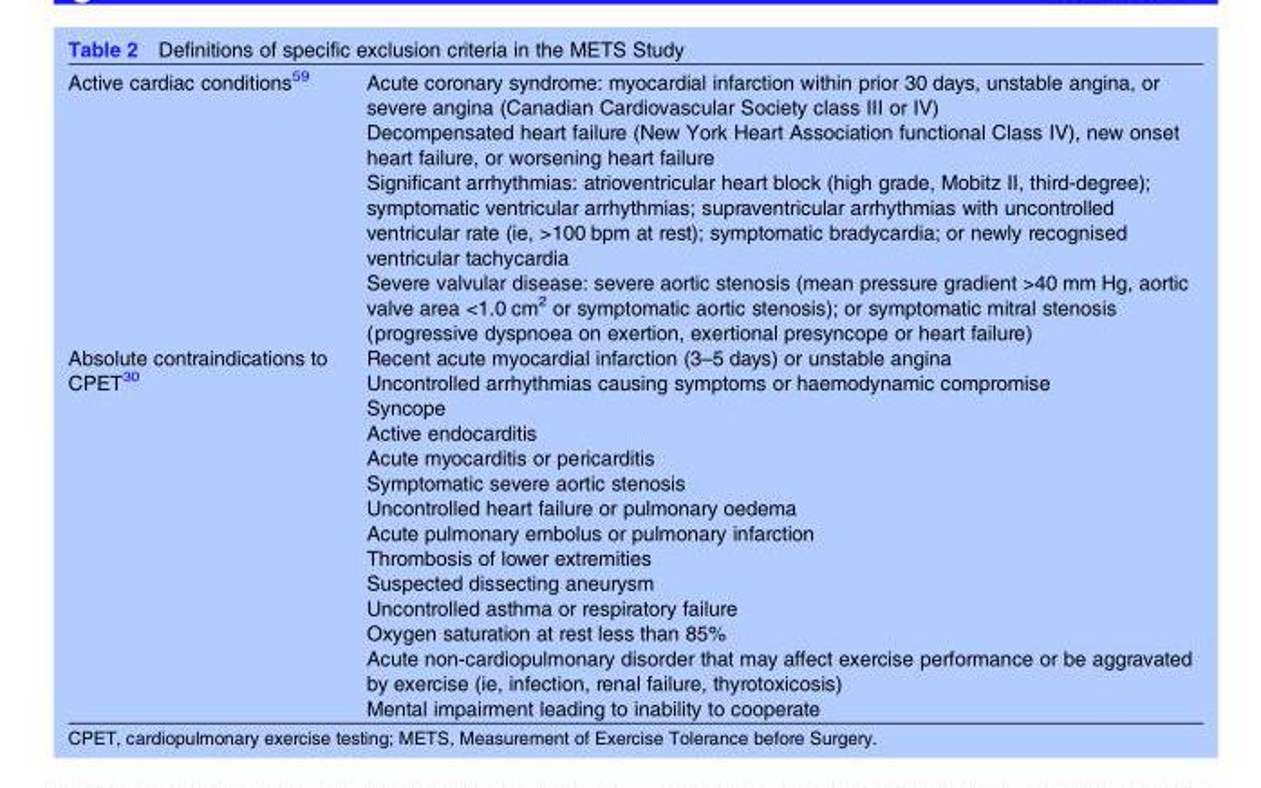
<table><tbody><tr><td rowspan="4">Active cardiac conditions<sup>59</sup></td><td>Acute coronary syndrome: myocardial infarction within prior 30 days, unstable angina, or severe angina (Canadian Cardiovascular Society class III or IV)</td></tr><tr><td>Decompensated heart failure (New York Heart Association functional Class IV), new onset heart failure, or worsening heart failure</td></tr><tr><td>Significant arrhythmias: atrioventricular heart block (high grade, Mobitz II, third-degree); symptomatic ventricular arrhythmias; supraventricular arrhythmias with uncontrolled ventricular rate (ie, &gt;100 bpm at rest); symptomatic bradycardia; or newly recognised ventricular tachycardia</td></tr><tr><td>Severe valvular disease: severe aortic stenosis (mean pressure gradient &gt;40 mm Hg, aortic valve area &lt;1.0 cm<sup>2</sup> or symptomatic aortic stenosis); or symptomatic mitral stenosis (progressive dyspnoea on exertion, exertional presyncope or heart failure)</td></tr><tr><td rowspan="14">Absolute contraindications to CPET<sup>30</sup></td><td>Recent acute myocardial infarction (3–5 days) or unstable angina</td></tr><tr><td>Uncontrolled arrhythmias causing symptoms or haemodynamic compromise</td></tr><tr><td>Syncope</td></tr><tr><td>Active endocarditis</td></tr><tr><td>Acute myocarditis or pericarditis</td></tr><tr><td>Symptomatic severe aortic stenosis</td></tr><tr><td>Uncontrolled heart failure or pulmonary oedema</td></tr><tr><td>Acute pulmonary embolus or pulmonary infarction</td></tr><tr><td>Thrombosis of lower extremities</td></tr><tr><td>Suspected dissecting aneurysm</td></tr><tr><td>Uncontrolled asthma or respiratory failure</td></tr><tr><td>Oxygen saturation at rest less than 85%</td></tr><tr><td>Acute non-cardiopulmonary disorder that may affect exercise performance or be aggravated by exercise (ie, infection, renal failure, thyrotoxicosis)</td></tr><tr><td>Mental impairment leading to inability to cooperate</td></tr></tbody></table>